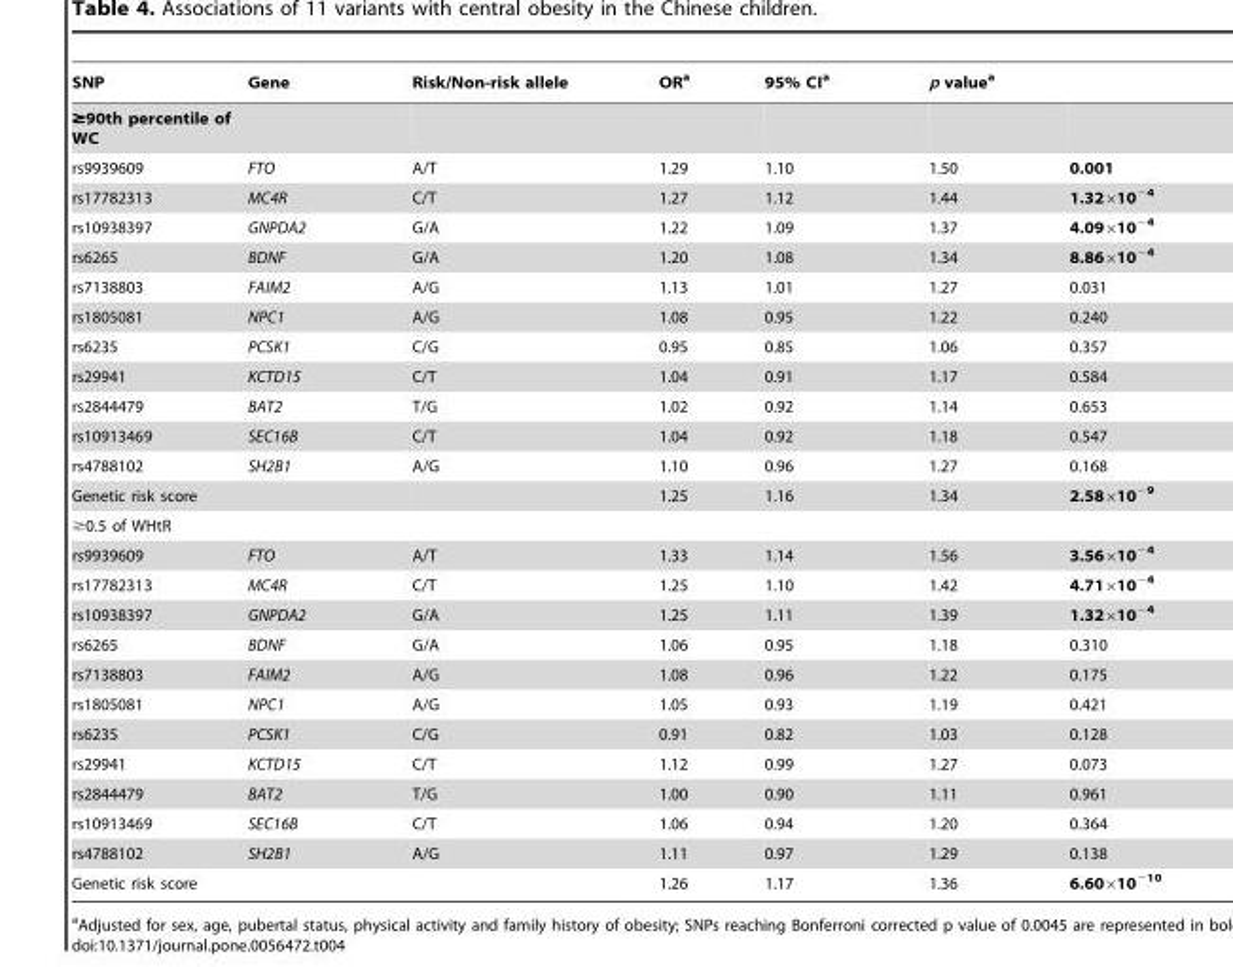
<table><thead><tr><td>SNP</td><td>Gene</td><td>Risk/Non-risk allele</td><td>OR<sup>a</sup></td><td>95% CI<sup>a</sup></td><td>p value<sup>a</sup></td><td></td></tr></thead><tbody><tr><td colspan="7">≥90th percentile of WC</td></tr><tr><td>rs9939609</td><td>FTO</td><td>A/T</td><td>1.29</td><td>1.10</td><td>1.50</td><td>0.001</td></tr><tr><td>rs17782313</td><td>MC4R</td><td>C/T</td><td>1.27</td><td>1.12</td><td>1.44</td><td>1.32×10<sup>−4</sup></td></tr><tr><td>rs10938397</td><td>GNPDA2</td><td>G/A</td><td>1.22</td><td>1.09</td><td>1.37</td><td>4.09×10<sup>−4</sup></td></tr><tr><td>rs6265</td><td>BDNF</td><td>G/A</td><td>1.20</td><td>1.08</td><td>1.34</td><td>8.86×10<sup>−4</sup></td></tr><tr><td>rs7138803</td><td>FAIM2</td><td>A/G</td><td>1.13</td><td>1.01</td><td>1.27</td><td>0.031</td></tr><tr><td>rs1805081</td><td>NPC1</td><td>A/G</td><td>1.08</td><td>0.95</td><td>1.22</td><td>0.240</td></tr><tr><td>rs6235</td><td>PCSK1</td><td>C/G</td><td>0.95</td><td>0.85</td><td>1.06</td><td>0.357</td></tr><tr><td>rs29941</td><td>KCTD15</td><td>C/T</td><td>1.04</td><td>0.91</td><td>1.17</td><td>0.584</td></tr><tr><td>rs2844479</td><td>BAT2</td><td>T/G</td><td>1.02</td><td>0.92</td><td>1.14</td><td>0.653</td></tr><tr><td>rs10913469</td><td>SEC16B</td><td>C/T</td><td>1.04</td><td>0.92</td><td>1.18</td><td>0.547</td></tr><tr><td>rs4788102</td><td>SH2B1</td><td>A/G</td><td>1.10</td><td>0.96</td><td>1.27</td><td>0.168</td></tr><tr><td>Genetic risk score</td><td></td><td></td><td>1.25</td><td>1.16</td><td>1.34</td><td>2.58×10<sup>−9</sup></td></tr><tr><td colspan="7">≥0.5 of WHtR</td></tr><tr><td>rs9939609</td><td>FTO</td><td>A/T</td><td>1.33</td><td>1.14</td><td>1.56</td><td>3.56×10<sup>−4</sup></td></tr><tr><td>rs17782313</td><td>MC4R</td><td>C/T</td><td>1.25</td><td>1.10</td><td>1.42</td><td>4.71×10<sup>−4</sup></td></tr><tr><td>rs10938397</td><td>GNPDA2</td><td>G/A</td><td>1.25</td><td>1.11</td><td>1.39</td><td>1.32×10<sup>−4</sup></td></tr><tr><td>rs6265</td><td>BDNF</td><td>G/A</td><td>1.06</td><td>0.95</td><td>1.18</td><td>0.310</td></tr><tr><td>rs7138803</td><td>FAIM2</td><td>A/G</td><td>1.08</td><td>0.96</td><td>1.22</td><td>0.175</td></tr><tr><td>rs1805081</td><td>NPC1</td><td>A/G</td><td>1.05</td><td>0.93</td><td>1.19</td><td>0.421</td></tr><tr><td>rs6235</td><td>PCSK1</td><td>C/G</td><td>0.91</td><td>0.82</td><td>1.03</td><td>0.128</td></tr><tr><td>rs29941</td><td>KCTD15</td><td>C/T</td><td>1.12</td><td>0.99</td><td>1.27</td><td>0.073</td></tr><tr><td>rs2844479</td><td>BAT2</td><td>T/G</td><td>1.00</td><td>0.90</td><td>1.11</td><td>0.961</td></tr><tr><td>rs10913469</td><td>SEC16B</td><td>C/T</td><td>1.06</td><td>0.94</td><td>1.20</td><td>0.364</td></tr><tr><td>rs4788102</td><td>SH2B1</td><td>A/G</td><td>1.11</td><td>0.97</td><td>1.29</td><td>0.138</td></tr><tr><td>Genetic risk score</td><td></td><td></td><td>1.26</td><td>1.17</td><td>1.36</td><td>6.60×10<sup>−10</sup></td></tr></tbody></table>